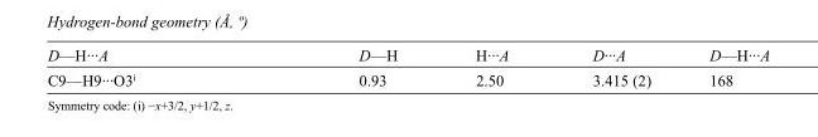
<table><tbody><tr><td>D—H···A</td><td>D—H</td><td>H···A</td><td>D···A</td><td>D—H···A</td></tr><tr><td>C9—H9···O3<sup>i</sup></td><td>0.93</td><td>2.50</td><td>3.415 (2)</td><td>168</td></tr></tbody></table>